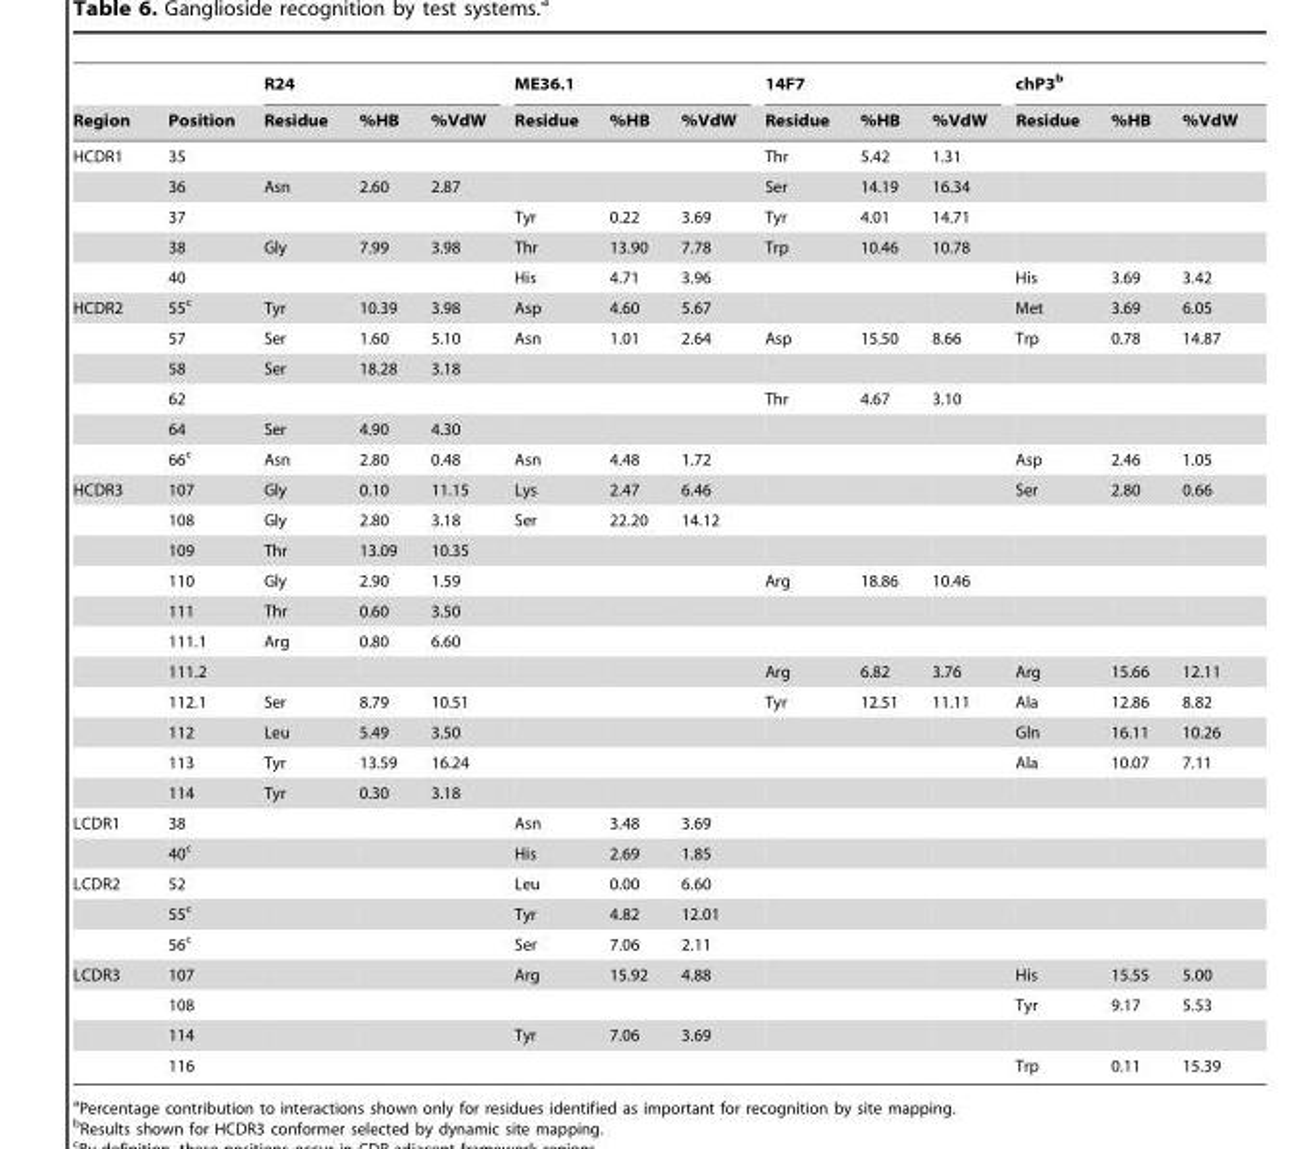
<table><thead><tr><td rowspan="2">Region</td><td rowspan="2">Position</td><td colspan="3">R24</td><td colspan="3">ME36.1</td><td colspan="3">14F7</td><td colspan="3">chP3<sup>b</sup></td></tr><tr><td>Residue</td><td>%HB</td><td>%VdW</td><td>Residue</td><td>%HB</td><td>%VdW</td><td>Residue</td><td>%HB</td><td>%VdW</td><td>Residue</td><td>%HB</td><td>%VdW</td></tr></thead><tbody><tr><td rowspan="5">HCDR1</td><td>35</td><td></td><td></td><td></td><td></td><td></td><td></td><td>Thr</td><td>5.42</td><td>1.31</td><td></td><td></td><td></td></tr><tr><td>36</td><td>Asn</td><td>2.60</td><td>2.87</td><td></td><td></td><td></td><td>Ser</td><td>14.19</td><td>16.34</td><td></td><td></td><td></td></tr><tr><td>37</td><td></td><td></td><td></td><td>Tyr</td><td>0.22</td><td>3.69</td><td>Tyr</td><td>4.01</td><td>14.71</td><td></td><td></td><td></td></tr><tr><td>38</td><td>Gly</td><td>7.99</td><td>3.98</td><td>Thr</td><td>13.90</td><td>7.78</td><td>Trp</td><td>10.46</td><td>10.78</td><td></td><td></td><td></td></tr><tr><td>40</td><td></td><td></td><td></td><td>His</td><td>4.71</td><td>3.96</td><td></td><td></td><td></td><td>His</td><td>3.69</td><td>3.42</td></tr><tr><td rowspan="6">HCDR2</td><td>55<sup>c</sup></td><td>Tyr</td><td>10.39</td><td>3.98</td><td>Asp</td><td>4.60</td><td>5.67</td><td></td><td></td><td></td><td>Met</td><td>3.69</td><td>6.05</td></tr><tr><td>57</td><td>Ser</td><td>1.60</td><td>5.10</td><td>Asn</td><td>1.01</td><td>2.64</td><td>Asp</td><td>15.50</td><td>8.66</td><td>Trp</td><td>0.78</td><td>14.87</td></tr><tr><td>58</td><td>Ser</td><td>18.28</td><td>3.18</td><td></td><td></td><td></td><td></td><td></td><td></td><td></td><td></td><td></td></tr><tr><td>62</td><td></td><td></td><td></td><td></td><td></td><td></td><td>Thr</td><td>4.67</td><td>3.10</td><td></td><td></td><td></td></tr><tr><td>64</td><td>Ser</td><td>4.90</td><td>4.30</td><td></td><td></td><td></td><td></td><td></td><td></td><td></td><td></td><td></td></tr><tr><td>66<sup>c</sup></td><td>Asn</td><td>2.80</td><td>0.48</td><td>Asn</td><td>4.48</td><td>1.72</td><td></td><td></td><td></td><td>Asp</td><td>2.46</td><td>1.05</td></tr><tr><td rowspan="11">HCDR3</td><td>107</td><td>Gly</td><td>0.10</td><td>11.15</td><td>Lys</td><td>2.47</td><td>6.46</td><td></td><td></td><td></td><td>Ser</td><td>2.80</td><td>0.66</td></tr><tr><td>108</td><td>Gly</td><td>2.80</td><td>3.18</td><td>Ser</td><td>22.20</td><td>14.12</td><td></td><td></td><td></td><td></td><td></td><td></td></tr><tr><td>109</td><td>Thr</td><td>13.09</td><td>10.35</td><td></td><td></td><td></td><td></td><td></td><td></td><td></td><td></td><td></td></tr><tr><td>110</td><td>Gly</td><td>2.90</td><td>1.59</td><td></td><td></td><td></td><td>Arg</td><td>18.86</td><td>10.46</td><td></td><td></td><td></td></tr><tr><td>111</td><td>Thr</td><td>0.60</td><td>3.50</td><td></td><td></td><td></td><td></td><td></td><td></td><td></td><td></td><td></td></tr><tr><td>111.1</td><td>Arg</td><td>0.80</td><td>6.60</td><td></td><td></td><td></td><td></td><td></td><td></td><td></td><td></td><td></td></tr><tr><td>111.2</td><td></td><td></td><td></td><td></td><td></td><td></td><td>Arg</td><td>6.82</td><td>3.76</td><td>Arg</td><td>15.66</td><td>12.11</td></tr><tr><td>112.1</td><td>Ser</td><td>8.79</td><td>10.51</td><td></td><td></td><td></td><td>Tyr</td><td>12.51</td><td>11.11</td><td>Ala</td><td>12.86</td><td>8.82</td></tr><tr><td>112</td><td>Leu</td><td>5.49</td><td>3.50</td><td></td><td></td><td></td><td></td><td></td><td></td><td>Gln</td><td>16.11</td><td>10.26</td></tr><tr><td>113</td><td>Tyr</td><td>13.59</td><td>16.24</td><td></td><td></td><td></td><td></td><td></td><td></td><td>Ala</td><td>10.07</td><td>7.11</td></tr><tr><td>114</td><td>Tyr</td><td>0.30</td><td>3.18</td><td></td><td></td><td></td><td></td><td></td><td></td><td></td><td></td><td></td></tr><tr><td rowspan="2">LCDR1</td><td>38</td><td></td><td></td><td></td><td>Asn</td><td>3.48</td><td>3.69</td><td></td><td></td><td></td><td></td><td></td><td></td></tr><tr><td>40<sup>c</sup></td><td></td><td></td><td></td><td>His</td><td>2.69</td><td>1.85</td><td></td><td></td><td></td><td></td><td></td><td></td></tr><tr><td rowspan="3">LCDR2</td><td>52</td><td></td><td></td><td></td><td>Leu</td><td>0.00</td><td>6.60</td><td></td><td></td><td></td><td></td><td></td><td></td></tr><tr><td>55<sup>c</sup></td><td></td><td></td><td></td><td>Tyr</td><td>4.82</td><td>12.01</td><td></td><td></td><td></td><td></td><td></td><td></td></tr><tr><td>56<sup>c</sup></td><td></td><td></td><td></td><td>Ser</td><td>7.06</td><td>2.11</td><td></td><td></td><td></td><td></td><td></td><td></td></tr><tr><td rowspan="4">LCDR3</td><td>107</td><td></td><td></td><td></td><td>Arg</td><td>15.92</td><td>4.88</td><td></td><td></td><td></td><td>His</td><td>15.55</td><td>5.00</td></tr><tr><td>108</td><td></td><td></td><td></td><td></td><td></td><td></td><td></td><td></td><td></td><td>Tyr</td><td>9.17</td><td>5.53</td></tr><tr><td>114</td><td></td><td></td><td></td><td>Tyr</td><td>7.06</td><td>3.69</td><td></td><td></td><td></td><td></td><td></td><td></td></tr><tr><td>116</td><td></td><td></td><td></td><td></td><td></td><td></td><td></td><td></td><td></td><td>Trp</td><td>0.11</td><td>15.39</td></tr></tbody></table>